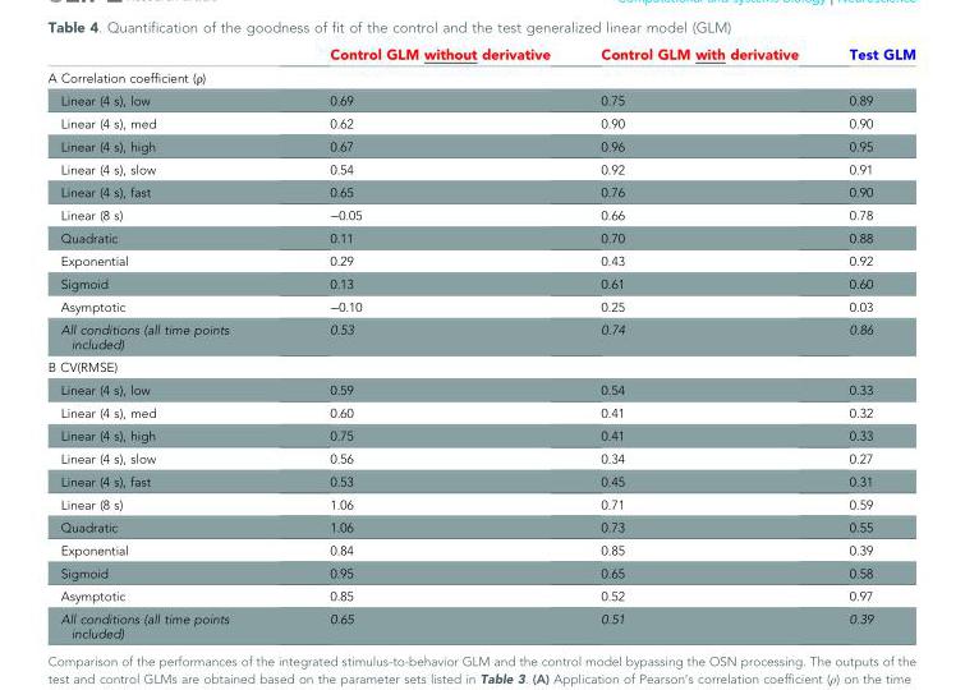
<table><thead><tr><td></td><td>Control GLM without derivative</td><td>Control GLM with derivative</td><td>Test GLM</td></tr></thead><tbody><tr><td colspan="4">A Correlation coefficient (ρ)</td></tr><tr><td>Linear (4 s), low</td><td>0.69</td><td>0.75</td><td>0.89</td></tr><tr><td>Linear (4 s), med</td><td>0.62</td><td>0.90</td><td>0.90</td></tr><tr><td>Linear (4 s), high</td><td>0.67</td><td>0.96</td><td>0.95</td></tr><tr><td>Linear (4 s), slow</td><td>0.54</td><td>0.92</td><td>0.91</td></tr><tr><td>Linear (4 s), fast</td><td>0.65</td><td>0.76</td><td>0.90</td></tr><tr><td>Linear (8 s)</td><td>−0.05</td><td>0.66</td><td>0.78</td></tr><tr><td>Quadratic</td><td>0.11</td><td>0.70</td><td>0.88</td></tr><tr><td>Exponential</td><td>0.29</td><td>0.43</td><td>0.92</td></tr><tr><td>Sigmoid</td><td>0.13</td><td>0.61</td><td>0.60</td></tr><tr><td>Asymptotic</td><td>−0.10</td><td>0.25</td><td>0.03</td></tr><tr><td>All conditions (all time points included)</td><td>0.53</td><td>0.74</td><td>0.86</td></tr><tr><td colspan="4">B CV(RMSE)</td></tr><tr><td>Linear (4 s), low</td><td>0.59</td><td>0.54</td><td>0.33</td></tr><tr><td>Linear (4 s), med</td><td>0.60</td><td>0.41</td><td>0.32</td></tr><tr><td>Linear (4 s), high</td><td>0.75</td><td>0.41</td><td>0.33</td></tr><tr><td>Linear (4 s), slow</td><td>0.56</td><td>0.34</td><td>0.27</td></tr><tr><td>Linear (4 s), fast</td><td>0.53</td><td>0.45</td><td>0.31</td></tr><tr><td>Linear (8 s)</td><td>1.06</td><td>0.71</td><td>0.59</td></tr><tr><td>Quadratic</td><td>1.06</td><td>0.73</td><td>0.55</td></tr><tr><td>Exponential</td><td>0.84</td><td>0.85</td><td>0.39</td></tr><tr><td>Sigmoid</td><td>0.95</td><td>0.65</td><td>0.58</td></tr><tr><td>Asymptotic</td><td>0.85</td><td>0.52</td><td>0.97</td></tr><tr><td>All conditions (all time points included)</td><td>0.65</td><td>0.51</td><td>0.39</td></tr></tbody></table>